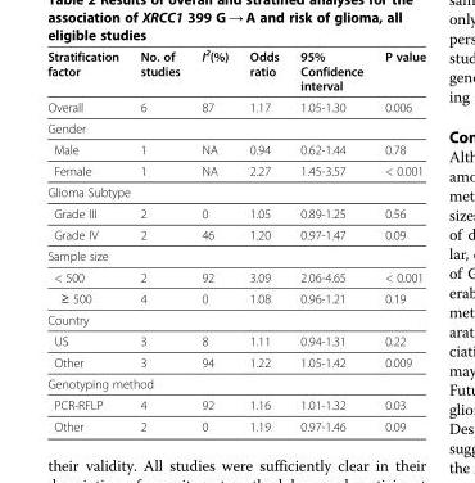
<table><thead><tr><td>Stratification factor</td><td>No. of studies</td><td>I<sup>2</sup>(%)</td><td>Odds ratio</td><td>95% Confidence interval</td><td>P value</td></tr></thead><tbody><tr><td>Overall</td><td>6</td><td>87</td><td>1.17</td><td>1.05-1.30</td><td>0.006</td></tr><tr><td colspan="6">Gender</td></tr><tr><td>Male</td><td>1</td><td>NA</td><td>0.94</td><td>0.62-1.44</td><td>0.78</td></tr><tr><td>Female</td><td>1</td><td>NA</td><td>2.27</td><td>1.45-3.57</td><td>&lt; 0.001</td></tr><tr><td colspan="6">Glioma Subtype</td></tr><tr><td>Grade III</td><td>2</td><td>0</td><td>1.05</td><td>0.89-1.25</td><td>0.56</td></tr><tr><td>Grade IV</td><td>2</td><td>46</td><td>1.20</td><td>0.97-1.47</td><td>0.09</td></tr><tr><td colspan="6">Sample size</td></tr><tr><td>&lt; 500</td><td>2</td><td>92</td><td>3.09</td><td>2.06-4.65</td><td>&lt; 0.001</td></tr><tr><td>≥ 500</td><td>4</td><td>0</td><td>1.08</td><td>0.96-1.21</td><td>0.19</td></tr><tr><td colspan="6">Country</td></tr><tr><td>US</td><td>3</td><td>8</td><td>1.11</td><td>0.94-1.31</td><td>0.22</td></tr><tr><td>Other</td><td>3</td><td>94</td><td>1.22</td><td>1.05-1.42</td><td>0.009</td></tr><tr><td colspan="6">Genotyping method</td></tr><tr><td>PCR-RFLP</td><td>4</td><td>92</td><td>1.16</td><td>1.01-1.32</td><td>0.03</td></tr><tr><td>Other</td><td>2</td><td>0</td><td>1.19</td><td>0.97-1.46</td><td>0.09</td></tr></tbody></table>